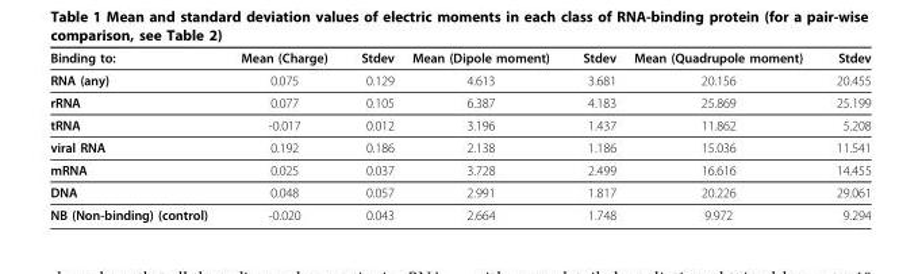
<table><thead><tr><td>Binding to:</td><td>Mean (Charge)</td><td>Stdev</td><td>Mean (Dipole moment)</td><td>Stdev</td><td>Mean (Quadrupole moment)</td><td>Stdev</td></tr></thead><tbody><tr><td>RNA (any)</td><td>0.075</td><td>0.129</td><td>4.613</td><td>3.681</td><td>20.156</td><td>20.455</td></tr><tr><td>rRNA</td><td>0.077</td><td>0.105</td><td>6.387</td><td>4.183</td><td>25.869</td><td>25.199</td></tr><tr><td>tRNA</td><td>-0.017</td><td>0.012</td><td>3.196</td><td>1.437</td><td>11.862</td><td>5.208</td></tr><tr><td>viral RNA</td><td>0.192</td><td>0.186</td><td>2.138</td><td>1.186</td><td>15.036</td><td>11.541</td></tr><tr><td>mRNA</td><td>0.025</td><td>0.037</td><td>3.728</td><td>2.499</td><td>16.616</td><td>14.455</td></tr><tr><td>DNA</td><td>0.048</td><td>0.057</td><td>2.991</td><td>1.817</td><td>20.226</td><td>29.061</td></tr><tr><td>NB (Non-binding) (control)</td><td>-0.020</td><td>0.043</td><td>2.664</td><td>1.748</td><td>9.972</td><td>9.294</td></tr></tbody></table>